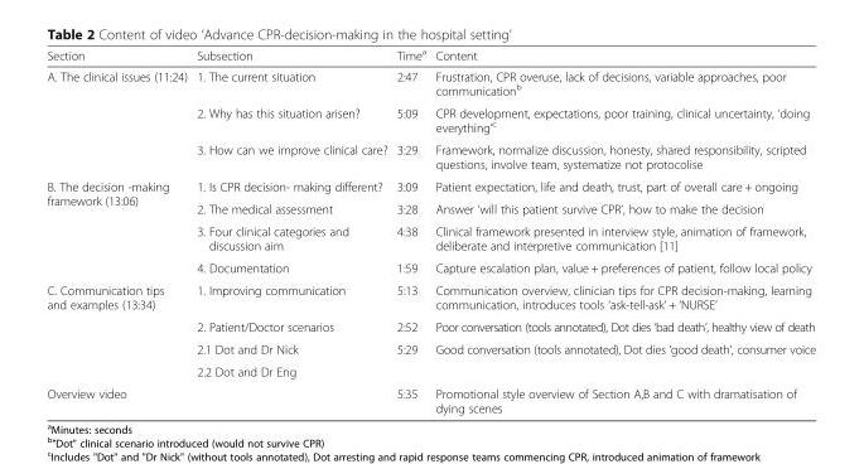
<table><thead><tr><td>Section</td><td>Subsection</td><td>Time<sup>a</sup></td><td>Content</td></tr></thead><tbody><tr><td rowspan="3">A. The clinical issues (11:24)</td><td>1. The current situation</td><td>2:47</td><td>Frustration, CPR overuse, lack of decisions, variable approaches, poor communication<sup>b</sup></td></tr><tr><td>2. Why has this situation arisen?</td><td>5:09</td><td>CPR development, expectations, poor training, clinical uncertainty, ‘doing everything’<sup>c</sup></td></tr><tr><td>3. How can we improve clinical care?</td><td>3:29</td><td>Framework, normalize discussion, honesty, shared responsibility, scripted questions, involve team, systematize not protocolise</td></tr><tr><td rowspan="4">B. The decision -making framework (13:06)</td><td>1. Is CPR decision- making different?</td><td>3:09</td><td>Patient expectation, life and death, trust, part of overall care + ongoing</td></tr><tr><td>2. The medical assessment</td><td>3:28</td><td>Answer ‘will this patient survive CPR’, how to make the decision</td></tr><tr><td>3. Four clinical categories and discussion aim</td><td>4:38</td><td>Clinical framework presented in interview style, animation of framework, deliberate and interpretive communication [11]</td></tr><tr><td>4. Documentation</td><td>1:59</td><td>Capture escalation plan, value + preferences of patient, follow local policy</td></tr><tr><td rowspan="4">C. Communication tips and examples (13:34)</td><td>1. Improving communication</td><td>5:13</td><td>Communication overview, clinician tips for CPR decision-making, learning communication, introduces tools ‘ask-tell-ask’ + ‘NURSE’</td></tr><tr><td>2. Patient/Doctor scenarios</td><td>2:52</td><td>Poor conversation (tools annotated), Dot dies ‘bad death’, healthy view of death</td></tr><tr><td>2.1 Dot and Dr Nick</td><td rowspan="2">5:29</td><td rowspan="2">Good conversation (tools annotated), Dot dies ‘good death’, consumer voice</td></tr><tr><td>2.2 Dot and Dr Eng</td></tr><tr><td>Overview video</td><td></td><td>5:35</td><td>Promotional style overview of Section A,B and C with dramatisation of dying scenes</td></tr></tbody></table>